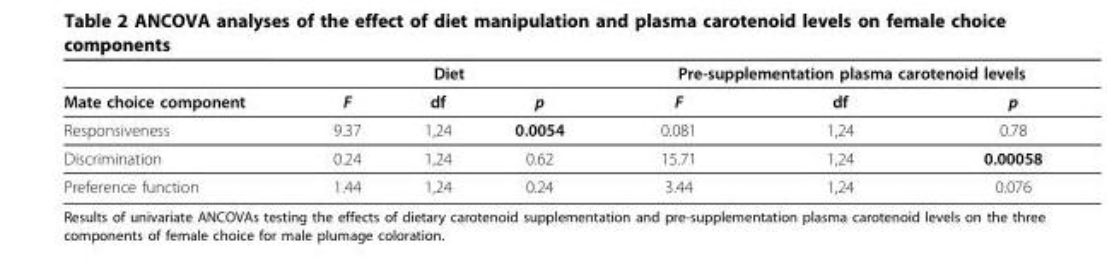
<table><thead><tr><td rowspan="2">Mate choice component</td><td colspan="3">Diet</td><td colspan="3">Pre-supplementation plasma carotenoid levels</td></tr><tr><td>F</td><td>df</td><td>p</td><td>F</td><td>df</td><td>p</td></tr></thead><tbody><tr><td>Responsiveness</td><td>9.37</td><td>1,24</td><td>0.0054</td><td>0.081</td><td>1,24</td><td>0.78</td></tr><tr><td>Discrimination</td><td>0.24</td><td>1,24</td><td>0.62</td><td>15.71</td><td>1,24</td><td>0.00058</td></tr><tr><td>Preference function</td><td>1.44</td><td>1,24</td><td>0.24</td><td>3.44</td><td>1,24</td><td>0.076</td></tr></tbody></table>